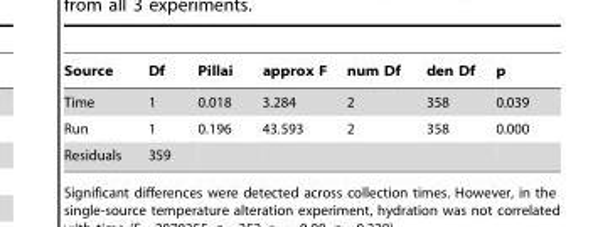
<table><thead><tr><td>Source</td><td>Df</td><td>Pillai</td><td>approx F</td><td>num Df</td><td>den Df</td><td>p</td></tr></thead><tbody><tr><td>Time</td><td>1</td><td>0.018</td><td>3.284</td><td>2</td><td>358</td><td>0.039</td></tr><tr><td>Run</td><td>1</td><td>0.196</td><td>43.593</td><td>2</td><td>358</td><td>0.000</td></tr><tr><td>Residuals</td><td>359</td><td></td><td></td><td></td><td></td><td></td></tr></tbody></table>